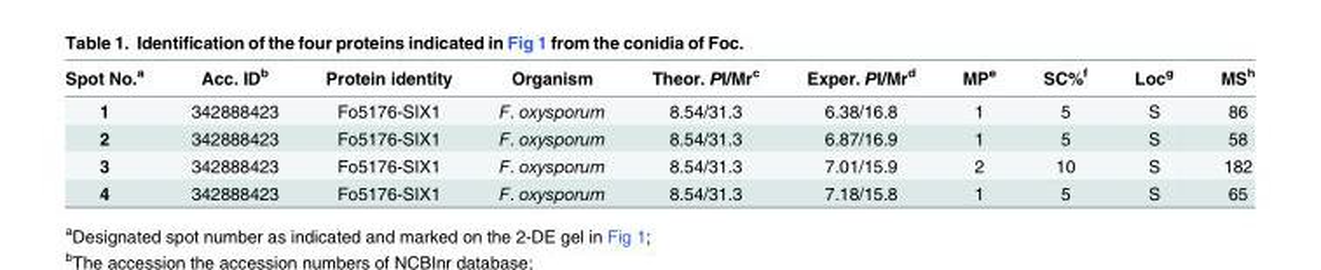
<table><thead><tr><td>Spot No.<sup>a</sup></td><td>Acc. ID<sup>b</sup></td><td>Protein identity</td><td>Organism</td><td>Theor. PI/Mr<sup>c</sup></td><td>Exper. PI/Mr<sup>d</sup></td><td>MP<sup>e</sup></td><td>SC%<sup>f</sup></td><td>Loc<sup>g</sup></td><td>MS<sup>h</sup></td></tr></thead><tbody><tr><td>1</td><td>342888423</td><td>Fo5176-SIX1</td><td>F. oxysporum</td><td>8.54/31.3</td><td>6.38/16.8</td><td>1</td><td>5</td><td>S</td><td>86</td></tr><tr><td>2</td><td>342888423</td><td>Fo5176-SIX1</td><td>F. oxysporum</td><td>8.54/31.3</td><td>6.87/16.9</td><td>1</td><td>5</td><td>S</td><td>58</td></tr><tr><td>3</td><td>342888423</td><td>Fo5176-SIX1</td><td>F. oxysporum</td><td>8.54/31.3</td><td>7.01/15.9</td><td>2</td><td>10</td><td>S</td><td>182</td></tr><tr><td>4</td><td>342888423</td><td>Fo5176-SIX1</td><td>F. oxysporum</td><td>8.54/31.3</td><td>7.18/15.8</td><td>1</td><td>5</td><td>S</td><td>65</td></tr></tbody></table>